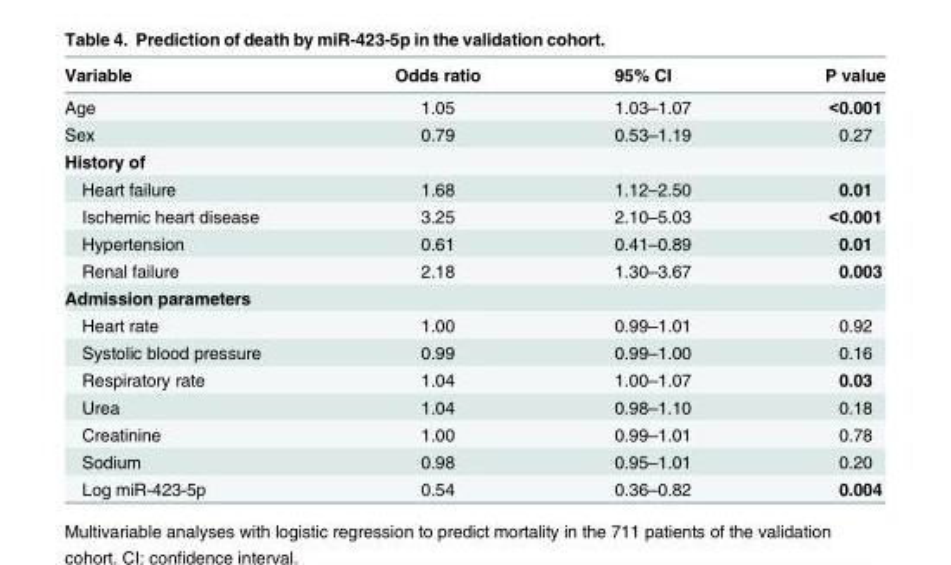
<table><thead><tr><td>Variable</td><td>Odds ratio</td><td>95% CI</td><td>P value</td></tr></thead><tbody><tr><td>Age</td><td>1.05</td><td>1.03–1.07</td><td>&lt;0.001</td></tr><tr><td>Sex</td><td>0.79</td><td>0.53–1.19</td><td>0.27</td></tr><tr><td colspan="4">History of</td></tr><tr><td>Heart failure</td><td>1.68</td><td>1.12–2.50</td><td>0.01</td></tr><tr><td>Ischemic heart disease</td><td>3.25</td><td>2.10–5.03</td><td>&lt;0.001</td></tr><tr><td>Hypertension</td><td>0.61</td><td>0.41–0.89</td><td>0.01</td></tr><tr><td>Renal failure</td><td>2.18</td><td>1.30–3.67</td><td>0.003</td></tr><tr><td colspan="4">Admission parameters</td></tr><tr><td>Heart rate</td><td>1.00</td><td>0.99–1.01</td><td>0.92</td></tr><tr><td>Systolic blood pressure</td><td>0.99</td><td>0.99–1.00</td><td>0.16</td></tr><tr><td>Respiratory rate</td><td>1.04</td><td>1.00–1.07</td><td>0.03</td></tr><tr><td>Urea</td><td>1.04</td><td>0.98–1.10</td><td>0.18</td></tr><tr><td>Creatinine</td><td>1.00</td><td>0.99–1.01</td><td>0.78</td></tr><tr><td>Sodium</td><td>0.98</td><td>0.95–1.01</td><td>0.20</td></tr><tr><td>Log miR-423-5p</td><td>0.54</td><td>0.36–0.82</td><td>0.004</td></tr></tbody></table>